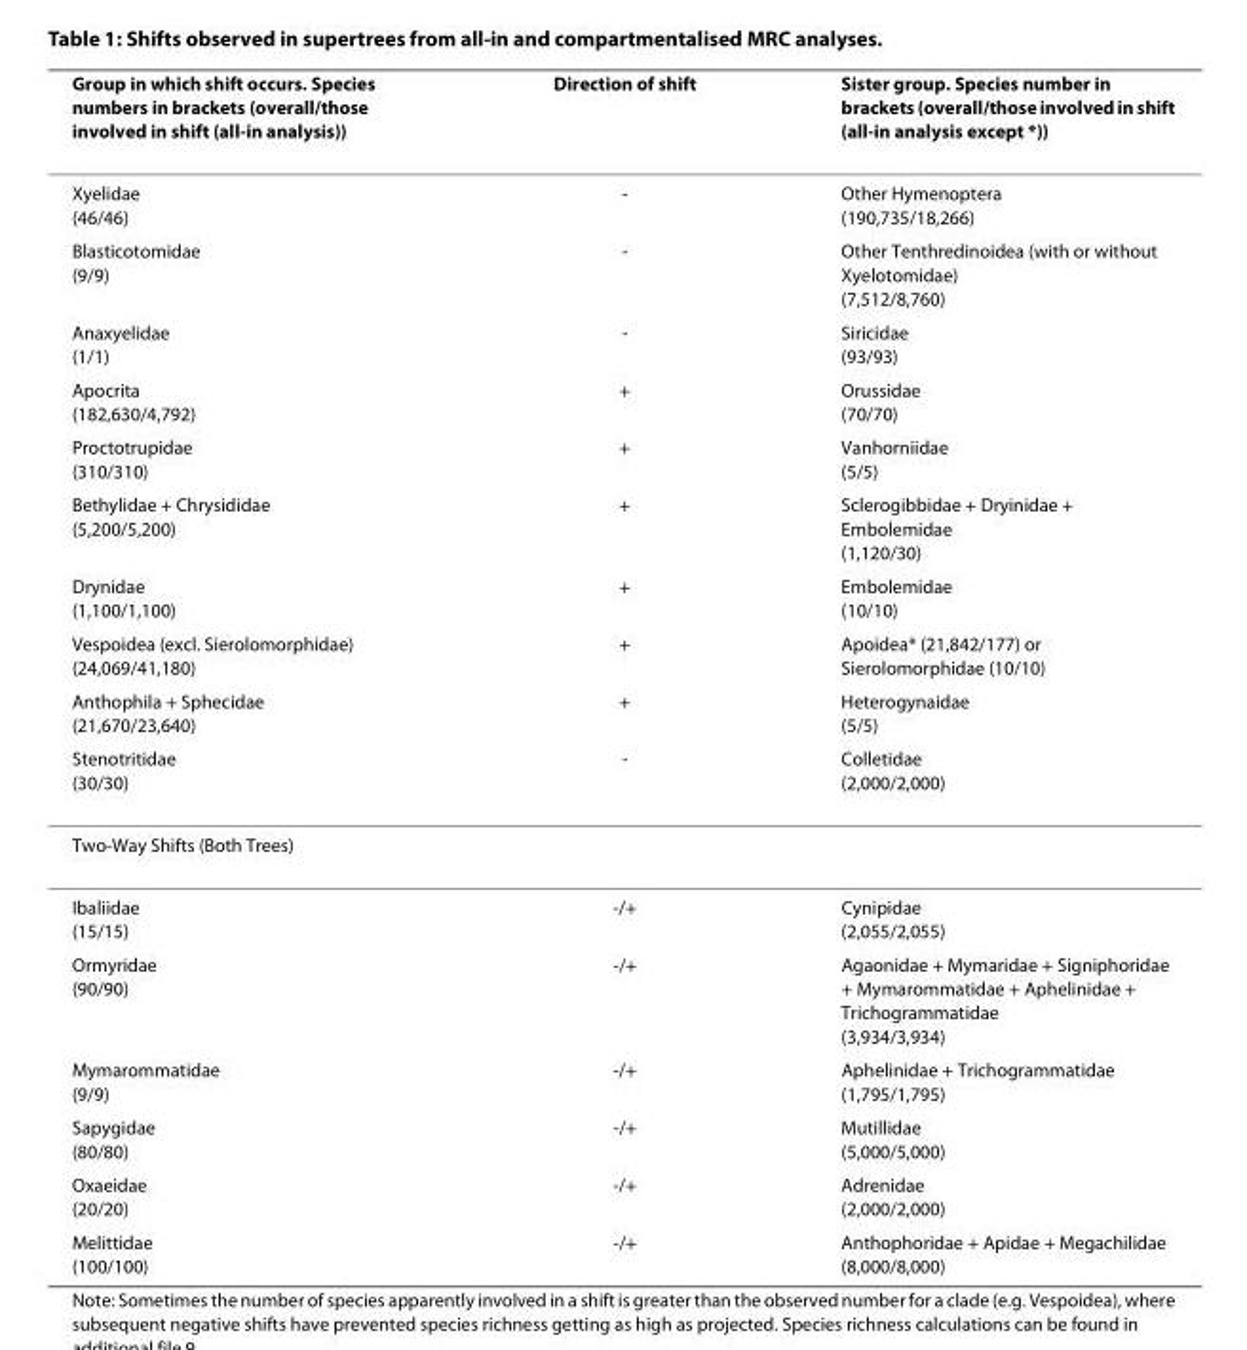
<table><thead><tr><td>Group in which shift occurs. Species numbers in brackets (overall/those involved in shift (all-in analysis))</td><td>Direction of shift</td><td>Sister group. Species number in brackets (overall/those involved in shift (all-in analysis except *))</td></tr></thead><tbody><tr><td>Xyelidae (46/46)</td><td>-</td><td>Other Hymenoptera (190,735/18,266)</td></tr><tr><td>Blasticotomidae (9/9)</td><td>-</td><td>Other Tenthredinoidea (with or without Xyelotomidae) (7,512/8,760)</td></tr><tr><td>Anaxyelidae (1/1)</td><td>-</td><td>Siricidae (93/93)</td></tr><tr><td>Apocrita (182,630/4,792)</td><td>+</td><td>Orussidae (70/70)</td></tr><tr><td>Proctotrupidae (310/310)</td><td>+</td><td>Vanhorniidae (5/5)</td></tr><tr><td>Bethylidae + Chrysididae (5,200/5,200)</td><td>+</td><td>Sclerogibbidae + Dryinidae + Embolemidae (1,120/30)</td></tr><tr><td>Drynidae (1,100/1,100)</td><td>+</td><td>Embolemidae (10/10)</td></tr><tr><td>Vespoidea (excl. Sierolomorphidae) (24,069/41,180)</td><td>+</td><td>Apoidea* (21,842/177) or Sierolomorphidae (10/10)</td></tr><tr><td>Anthophila + Sphecidae (21,670/23,640)</td><td>+</td><td>Heterogynaidae (5/5)</td></tr><tr><td>Stenotritidae (30/30)</td><td>-</td><td>Colletidae (2,000/2,000)</td></tr><tr><td colspan="3">Two-Way Shifts (Both Trees)</td></tr><tr><td>Ibaliidae (15/15)</td><td>-/+</td><td>Cynipidae (2,055/2,055)</td></tr><tr><td>Ormyridae (90/90)</td><td>-/+</td><td>Agaonidae + Mymaridae + Signiphoridae + Mymarommatidae + Aphelinidae + Trichogrammatidae (3,934/3,934)</td></tr><tr><td>Mymarommatidae (9/9)</td><td>-/+</td><td>Aphelinidae + Trichogrammatidae (1,795/1,795)</td></tr><tr><td>Sapygidae (80/80)</td><td>-/+</td><td>Mutillidae (5,000/5,000)</td></tr><tr><td>Oxaeidae (20/20)</td><td>-/+</td><td>Adrenidae (2,000/2,000)</td></tr><tr><td>Melittidae (100/100)</td><td>-/+</td><td>Anthophoridae + Apidae + Megachilidae (8,000/8,000)</td></tr></tbody></table>